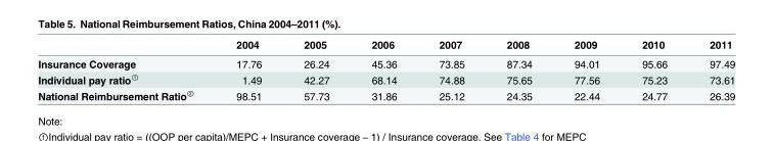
<table><thead><tr><td></td><td>2004</td><td>2005</td><td>2006</td><td>2007</td><td>2008</td><td>2009</td><td>2010</td><td>2011</td></tr></thead><tbody><tr><td>Insurance Coverage</td><td>17.76</td><td>26.24</td><td>45.36</td><td>73.85</td><td>87.34</td><td>94.01</td><td>95.66</td><td>97.49</td></tr><tr><td>Individual pay ratio<sup>①</sup></td><td>1.49</td><td>42.27</td><td>68.14</td><td>74.88</td><td>75.65</td><td>77.56</td><td>75.23</td><td>73.61</td></tr><tr><td>National Reimbursement Ratio<sup>②</sup></td><td>98.51</td><td>57.73</td><td>31.86</td><td>25.12</td><td>24.35</td><td>22.44</td><td>24.77</td><td>26.39</td></tr></tbody></table>